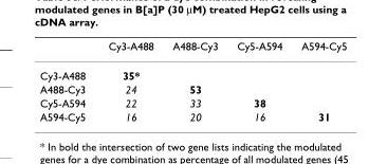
<table><thead><tr><td></td><td>Cy3-A488</td><td>A488-Cy3</td><td>Cy5-A594</td><td>A594-Cy5</td></tr></thead><tbody><tr><td>Cy3-A488</td><td>35*</td><td></td><td></td><td></td></tr><tr><td>A488-Cy3</td><td>24</td><td>53</td><td></td><td></td></tr><tr><td>Cy5-A594</td><td>22</td><td>33</td><td>38</td><td></td></tr><tr><td>A594-Cy5</td><td>16</td><td>20</td><td>16</td><td>31</td></tr></tbody></table>